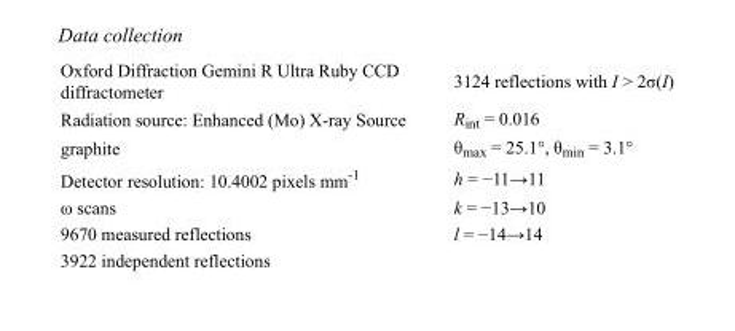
<table><tbody><tr><td>Oxford Diffraction Gemini R Ultra Ruby CCD diffractometer</td><td>3124 reflections with I &gt; 2σ(I)</td></tr><tr><td>Radiation source: Enhanced (Mo) X-ray Source</td><td>R<sub>int</sub> = 0.016</td></tr><tr><td>graphite</td><td>θ<sub>max</sub> = 25.1°, θ<sub>min</sub> = 3.1°</td></tr><tr><td>Detector resolution: 10.4002 pixels mm<sup>-1</sup></td><td>h = −11→11</td></tr><tr><td>ω scans</td><td>k = −13→10</td></tr><tr><td>9670 measured reflections</td><td>l = −14→14</td></tr><tr><td>3922 independent reflections</td><td></td></tr></tbody></table>